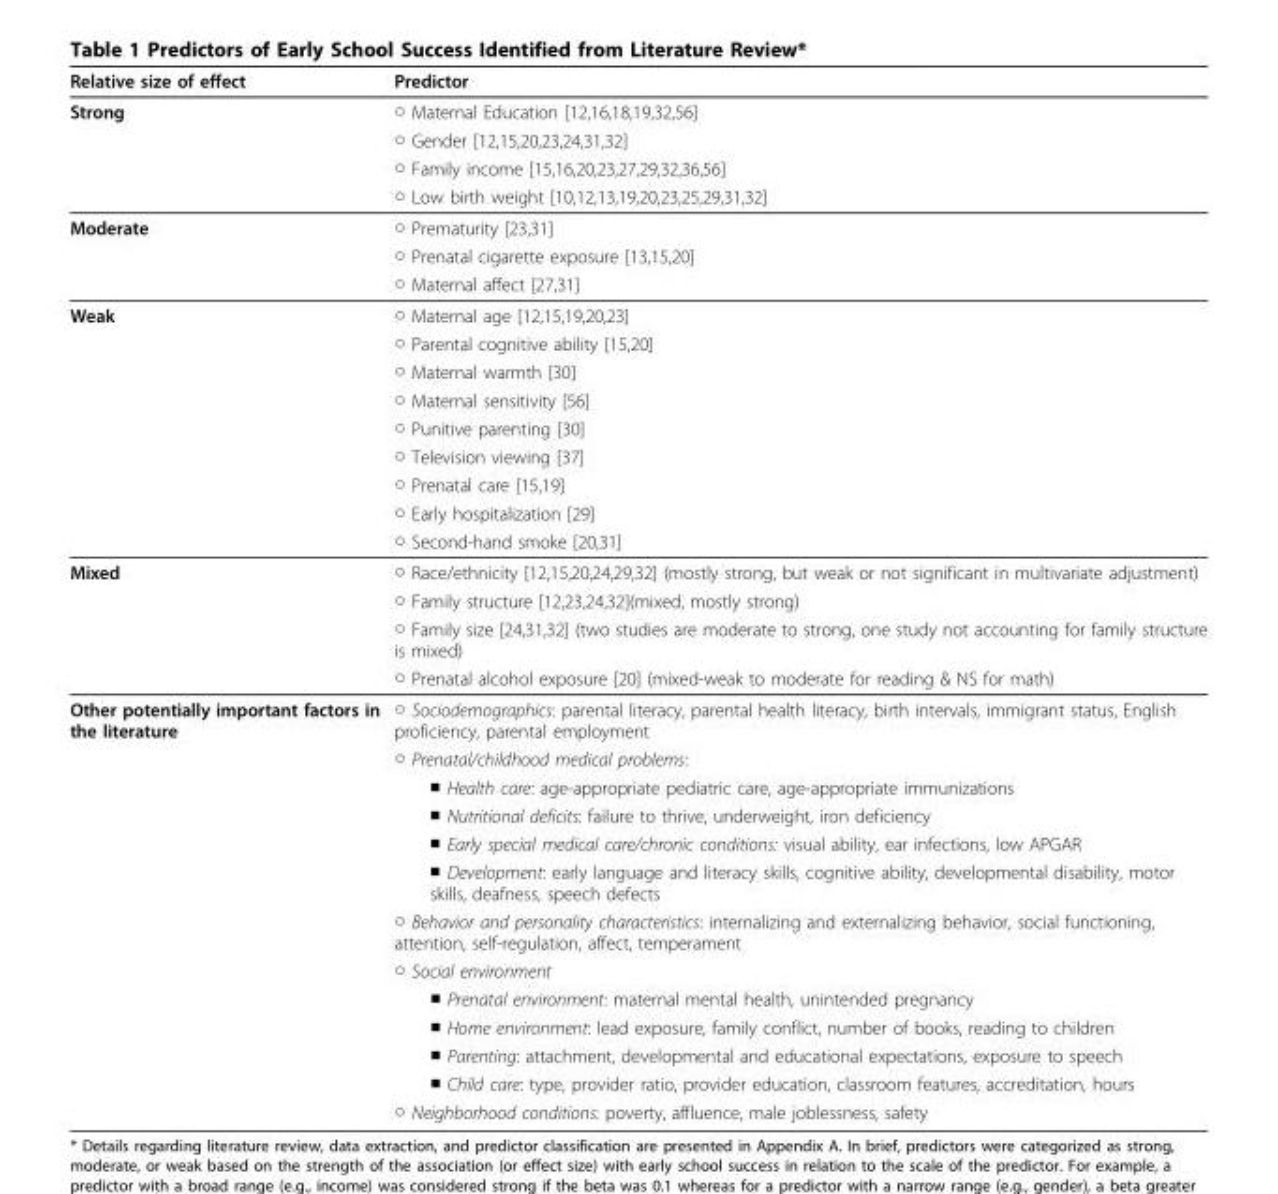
<table><thead><tr><td>Relative size of effect</td><td>Predictor</td></tr></thead><tbody><tr><td rowspan="4">Strong</td><td>○ Maternal Education [12,16,18,19,32,56]</td></tr><tr><td>○ Gender [12,15,20,23,24,31,32]</td></tr><tr><td>○ Family income [15,16,20,23,27,29,32,36,56]</td></tr><tr><td>○ Low birth weight [10,12,13,19,20,23,25,29,31,32]</td></tr><tr><td rowspan="3">Moderate</td><td>○ Prematurity [23,31]</td></tr><tr><td>○ Prenatal cigarette exposure [13,15,20]</td></tr><tr><td>○ Maternal affect [27,31]</td></tr><tr><td rowspan="9">Weak</td><td>○ Maternal age [12,15,19,20,23]</td></tr><tr><td>○ Parental cognitive ability [15,20]</td></tr><tr><td>○ Maternal warmth [30]</td></tr><tr><td>○ Maternal sensitivity [56]</td></tr><tr><td>○ Punitive parenting [30]</td></tr><tr><td>○ Television viewing [37]</td></tr><tr><td>○ Prenatal care [15,19]</td></tr><tr><td>○ Early hospitalization [29]</td></tr><tr><td>○ Second-hand smoke [20,31]</td></tr><tr><td rowspan="4">Mixed</td><td>○ Race/ethnicity [12,15,20,24,29,32] (mostly strong, but weak or not significant in multivariate adjustment)</td></tr><tr><td>○ Family structure [12,23,24,32](mixed, mostly strong)</td></tr><tr><td>○ Family size [24,31,32] (two studies are moderate to strong, one study not accounting for family structure is mixed)</td></tr><tr><td>○ Prenatal alcohol exposure [20] (mixed-weak to moderate for reading &amp; NS for math)</td></tr><tr><td rowspan="13">Other potentially important factors in the literature</td><td>○ Sociodemographics: parental literacy, parental health literacy, birth intervals, immigrant status, English proficiency, parental employment</td></tr><tr><td>○ Prenatal/childhood medical problems:</td></tr><tr><td>■ Health care: age-appropriate pediatric care, age-appropriate immunizations</td></tr><tr><td>■ Nutritional deficits: failure to thrive, underweight, iron deficiency</td></tr><tr><td>■ Early special medical care/chronic conditions: visual ability, ear infections, low APGAR</td></tr><tr><td>■ Development: early language and literacy skills, cognitive ability, developmental disability, motor skills, deafness, speech defects</td></tr><tr><td>○ Behavior and personality characteristics: internalizing and externalizing behavior, social functioning, attention, self-regulation, affect, temperament</td></tr><tr><td>○ Social environment</td></tr><tr><td>■ Prenatal environment: maternal mental health, unintended pregnancy</td></tr><tr><td>■ Home environment: lead exposure, family conflict, number of books, reading to children</td></tr><tr><td>■ Parenting: attachment, developmental and educational expectations, exposure to speech</td></tr><tr><td>■ Child care: type, provider ratio, provider education, classroom features, accreditation, hours</td></tr><tr><td>○ Neighborhood conditions: poverty, affluence, male joblessness, safety</td></tr></tbody></table>